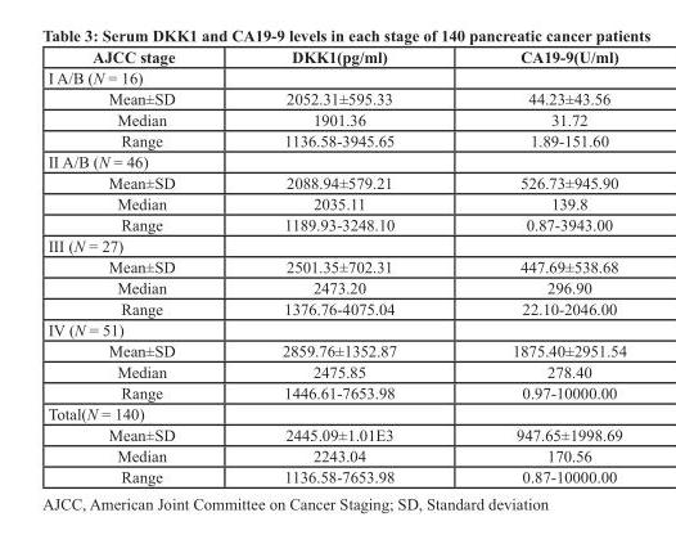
<table><thead><tr><td>AJCC stage</td><td>DKK1(pg/ml)</td><td>CA19-9(U/ml)</td></tr></thead><tbody><tr><td colspan="3">I A/B (N = 16)</td></tr><tr><td>Mean±SD</td><td>2052.31±595.33</td><td>44.23±43.56</td></tr><tr><td>Median</td><td>1901.36</td><td>31.72</td></tr><tr><td>Range</td><td>1136.58-3945.65</td><td>1.89-151.60</td></tr><tr><td colspan="3">II A/B (N = 46)</td></tr><tr><td>Mean±SD</td><td>2088.94±579.21</td><td>526.73±945.90</td></tr><tr><td>Median</td><td>2035.11</td><td>139.8</td></tr><tr><td>Range</td><td>1189.93-3248.10</td><td>0.87-3943.00</td></tr><tr><td colspan="3">III (N = 27)</td></tr><tr><td>Mean±SD</td><td>2501.35±702.31</td><td>447.69±538.68</td></tr><tr><td>Median</td><td>2473.20</td><td>296.90</td></tr><tr><td>Range</td><td>1376.76-4075.04</td><td>22.10-2046.00</td></tr><tr><td colspan="3">IV (N = 51)</td></tr><tr><td>Mean±SD</td><td>2859.76±1352.87</td><td>1875.40±2951.54</td></tr><tr><td>Median</td><td>2475.85</td><td>278.40</td></tr><tr><td>Range</td><td>1446.61-7653.98</td><td>0.97-10000.00</td></tr><tr><td colspan="3">Total(N = 140)</td></tr><tr><td>Mean±SD</td><td>2445.09±1.01E3</td><td>947.65±1998.69</td></tr><tr><td>Median</td><td>2243.04</td><td>170.56</td></tr><tr><td>Range</td><td>1136.58-7653.98</td><td>0.87-10000.00</td></tr></tbody></table>